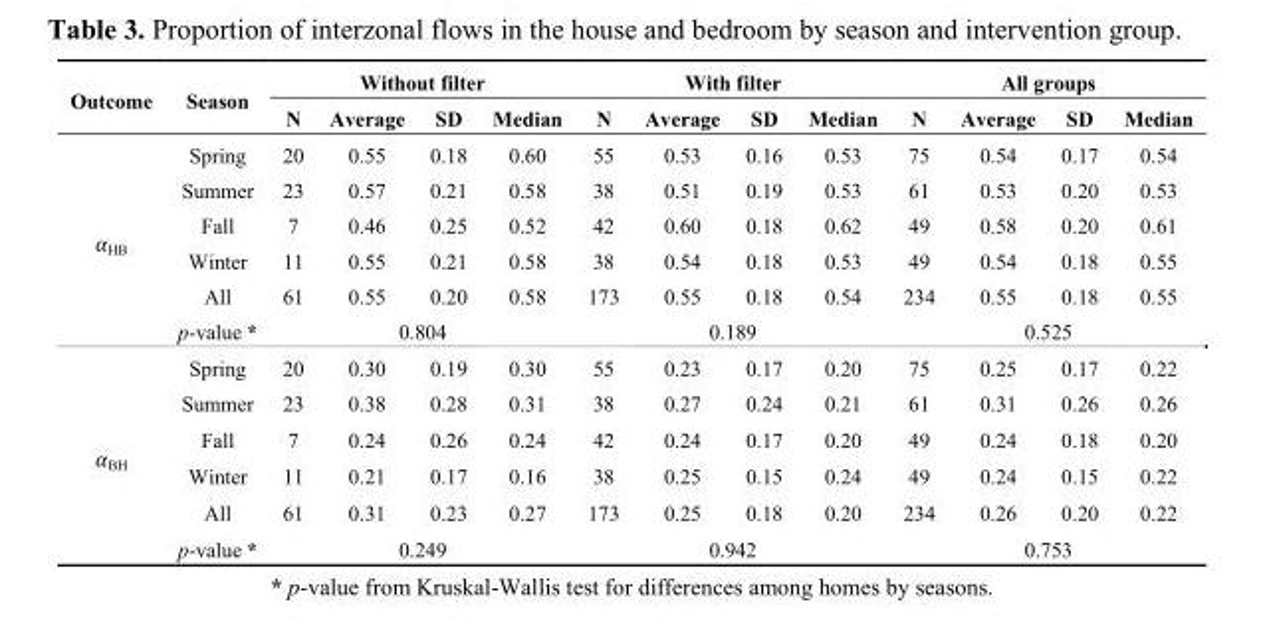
<table><thead><tr><td rowspan="2">Outcome</td><td rowspan="2">Season</td><td colspan="4">Without filter</td><td colspan="4">With filter</td><td colspan="4">All groups</td></tr><tr><td>N</td><td>Average</td><td>SD</td><td>Median</td><td>N</td><td>Average</td><td>SD</td><td>Median</td><td>N</td><td>Average</td><td>SD</td><td>Median</td></tr></thead><tbody><tr><td rowspan="6">𝛼<sub>HB</sub></td><td>Spring</td><td>20</td><td>0.55</td><td>0.18</td><td>0.60</td><td>55</td><td>0.53</td><td>0.16</td><td>0.53</td><td>75</td><td>0.54</td><td>0.17</td><td>0.54</td></tr><tr><td>Summer</td><td>23</td><td>0.57</td><td>0.21</td><td>0.58</td><td>38</td><td>0.51</td><td>0.19</td><td>0.53</td><td>61</td><td>0.53</td><td>0.20</td><td>0.53</td></tr><tr><td>Fall</td><td>7</td><td>0.46</td><td>0.25</td><td>0.52</td><td>42</td><td>0.60</td><td>0.18</td><td>0.62</td><td>49</td><td>0.58</td><td>0.20</td><td>0.61</td></tr><tr><td>Winter</td><td>11</td><td>0.55</td><td>0.21</td><td>0.58</td><td>38</td><td>0.54</td><td>0.18</td><td>0.53</td><td>49</td><td>0.54</td><td>0.18</td><td>0.55</td></tr><tr><td>All</td><td>61</td><td>0.55</td><td>0.20</td><td>0.58</td><td>173</td><td>0.55</td><td>0.18</td><td>0.54</td><td>234</td><td>0.55</td><td>0.18</td><td>0.55</td></tr><tr><td>p-value *</td><td colspan="4">0.804</td><td colspan="4">0.189</td><td colspan="4">0.525</td></tr><tr><td rowspan="6">𝛼<sub>BH</sub></td><td>Spring</td><td>20</td><td>0.30</td><td>0.19</td><td>0.30</td><td>55</td><td>0.23</td><td>0.17</td><td>0.20</td><td>75</td><td>0.25</td><td>0.17</td><td>0.22</td></tr><tr><td>Summer</td><td>23</td><td>0.38</td><td>0.28</td><td>0.31</td><td>38</td><td>0.27</td><td>0.24</td><td>0.21</td><td>61</td><td>0.31</td><td>0.26</td><td>0.26</td></tr><tr><td>Fall</td><td>7</td><td>0.24</td><td>0.26</td><td>0.24</td><td>42</td><td>0.24</td><td>0.17</td><td>0.20</td><td>49</td><td>0.24</td><td>0.18</td><td>0.20</td></tr><tr><td>Winter</td><td>11</td><td>0.21</td><td>0.17</td><td>0.16</td><td>38</td><td>0.25</td><td>0.15</td><td>0.24</td><td>49</td><td>0.24</td><td>0.15</td><td>0.22</td></tr><tr><td>All</td><td>61</td><td>0.31</td><td>0.23</td><td>0.27</td><td>173</td><td>0.25</td><td>0.18</td><td>0.20</td><td>234</td><td>0.26</td><td>0.20</td><td>0.22</td></tr><tr><td>p-value *</td><td colspan="4">0.249</td><td colspan="4">0.942</td><td colspan="4">0.753</td></tr></tbody></table>